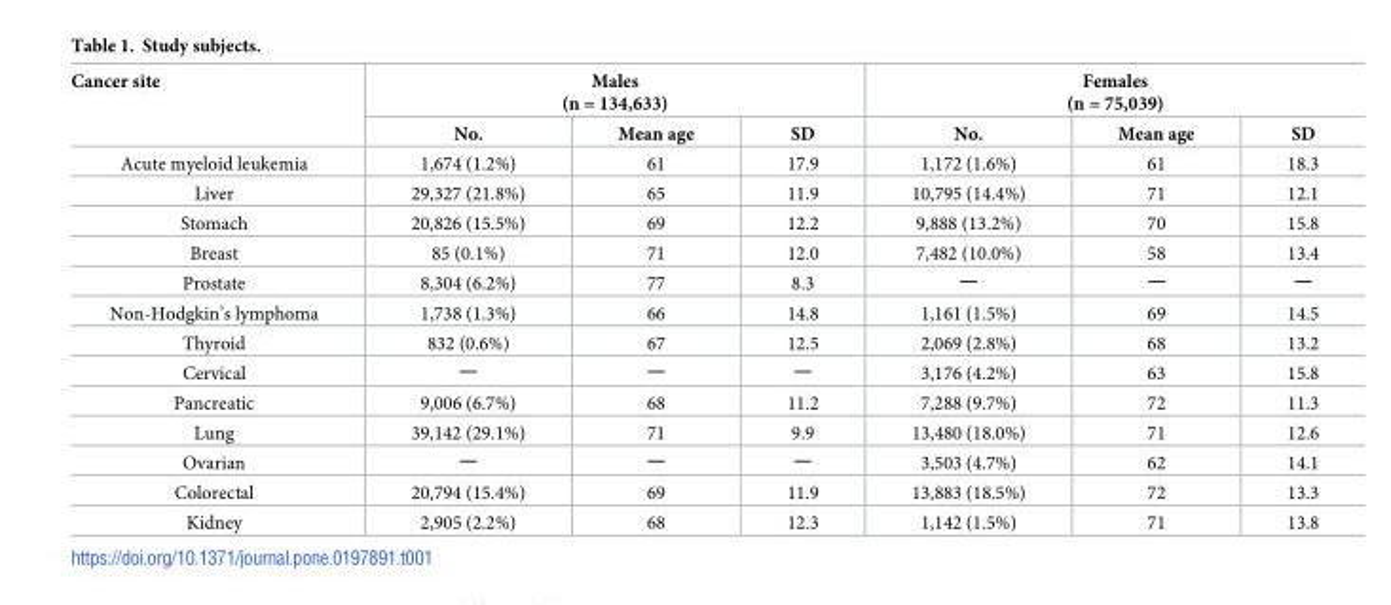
<table><thead><tr><td rowspan="2">Cancer site</td><td colspan="3">Males (n = 134,633)</td><td colspan="3">Females (n = 75,039)</td></tr><tr><td>No.</td><td>Mean age</td><td>SD</td><td>No.</td><td>Mean age</td><td>SD</td></tr></thead><tbody><tr><td>Acute myeloid leukemia</td><td>1,674 (1.2%)</td><td>61</td><td>17.9</td><td>1,172 (1.6%)</td><td>61</td><td>18.3</td></tr><tr><td>Liver</td><td>29,327 (21.8%)</td><td>65</td><td>11.9</td><td>10,795 (14.4%)</td><td>71</td><td>12.1</td></tr><tr><td>Stomach</td><td>20,826 (15.5%)</td><td>69</td><td>12.2</td><td>9,888 (13.2%)</td><td>70</td><td>15.8</td></tr><tr><td>Breast</td><td>85 (0.1%)</td><td>71</td><td>12.0</td><td>7,482 (10.0%)</td><td>58</td><td>13.4</td></tr><tr><td>Prostate</td><td>8,304 (6.2%)</td><td>77</td><td>8.3</td><td>ㅡ</td><td>ㅡ</td><td>ㅡ</td></tr><tr><td>Non-Hodgkin’s lymphoma</td><td>1,738 (1.3%)</td><td>66</td><td>14.8</td><td>1,161 (1.5%)</td><td>69</td><td>14.5</td></tr><tr><td>Thyroid</td><td>832 (0.6%)</td><td>67</td><td>12.5</td><td>2,069 (2.8%)</td><td>68</td><td>13.2</td></tr><tr><td>Cervical</td><td>ㅡ</td><td>ㅡ</td><td>ㅡ</td><td>3,176 (4.2%)</td><td>63</td><td>15.8</td></tr><tr><td>Pancreatic</td><td>9,006 (6.7%)</td><td>68</td><td>11.2</td><td>7,288 (9.7%)</td><td>72</td><td>11.3</td></tr><tr><td>Lung</td><td>39,142 (29.1%)</td><td>71</td><td>9.9</td><td>13,480 (18.0%)</td><td>71</td><td>12.6</td></tr><tr><td>Ovarian</td><td>ㅡ</td><td>ㅡ</td><td>ㅡ</td><td>3,503 (4.7%)</td><td>62</td><td>14.1</td></tr><tr><td>Colorectal</td><td>20,794 (15.4%)</td><td>69</td><td>11.9</td><td>13,883 (18.5%)</td><td>72</td><td>13.3</td></tr><tr><td>Kidney</td><td>2,905 (2.2%)</td><td>68</td><td>12.3</td><td>1,142 (1.5%)</td><td>71</td><td>13.8</td></tr></tbody></table>